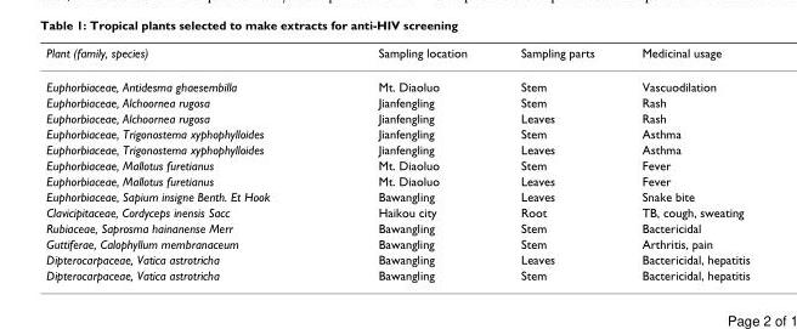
<table><thead><tr><td>Plant (family, species)</td><td>Sampling location</td><td>Sampling parts</td><td>Medicinal usage</td></tr></thead><tbody><tr><td>Euphorbiaceae, Antidesma ghaesembilla</td><td>Mt. Diaoluo</td><td>Stem</td><td>Vascuodilation</td></tr><tr><td>Euphorbiaceae, Alchoornea rugosa</td><td>Jianfengling</td><td>Stem</td><td>Rash</td></tr><tr><td>Euphorbiaceae, Alchoornea rugosa</td><td>Jianfengling</td><td>Leaves</td><td>Rash</td></tr><tr><td>Euphorbiaceae, Trigonostema xyphophylloides</td><td>Jianfengling</td><td>Stem</td><td>Asthma</td></tr><tr><td>Euphorbiaceae, Trigonostema xyphophylloides</td><td>Jianfengling</td><td>Leaves</td><td>Asthma</td></tr><tr><td>Euphorbiaceae, Mallotus furetianus</td><td>Mt. Diaoluo</td><td>Stem</td><td>Fever</td></tr><tr><td>Euphorbiaceae, Mallotus furetianus</td><td>Mt. Diaoluo</td><td>Leaves</td><td>Fever</td></tr><tr><td>Euphorbiaceae, Sapium insigne Benth. Et Hook</td><td>Bawangling</td><td>Leaves</td><td>Snake bite</td></tr><tr><td>Clavicipitaceae, Cordyceps inensis Sacc</td><td>Haikou city</td><td>Root</td><td>TB, cough, sweating</td></tr><tr><td>Rubiaceae, Saprosma hainanense Merr</td><td>Bawangling</td><td>Stem</td><td>Bactericidal</td></tr><tr><td>Guttiferae, Calophyllum membranaceum</td><td>Bawangling</td><td>Stem</td><td>Arthritis, pain</td></tr><tr><td>Dipterocarpaceae, Vatica astrotricha</td><td>Bawangling</td><td>Leaves</td><td>Bactericidal, hepatitis</td></tr><tr><td>Dipterocarpaceae, Vatica astrotricha</td><td>Bawangling</td><td>Stem</td><td>Bactericidal, hepatitis</td></tr></tbody></table>